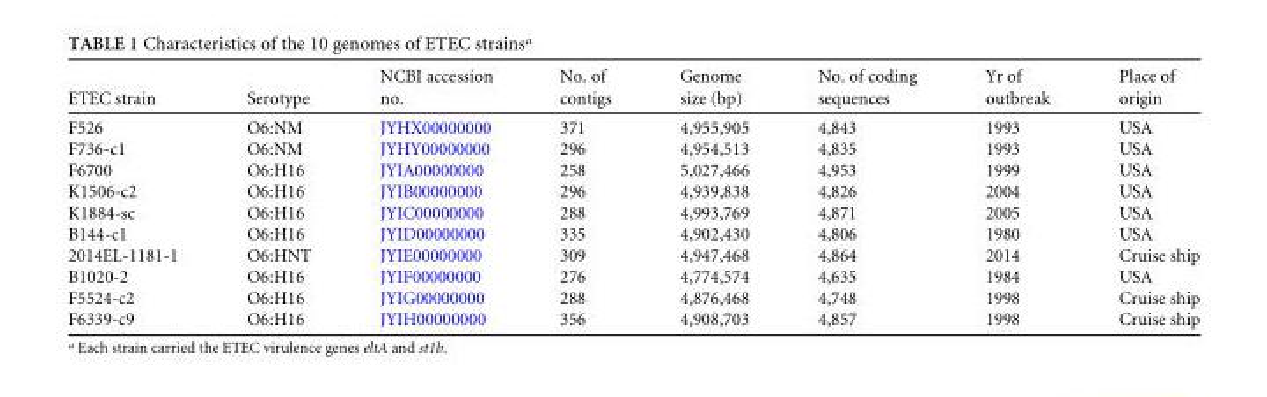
<table><thead><tr><td>ETEC strain</td><td>Serotype</td><td>NCBI accession no.</td><td>No. of contigs</td><td>Genome size (bp)</td><td>No. of coding sequences</td><td>Yr of outbreak</td><td>Place of origin</td></tr></thead><tbody><tr><td>F526</td><td>O6:NM</td><td>JYHX00000000</td><td>371</td><td>4,955,905</td><td>4,843</td><td>1993</td><td>USA</td></tr><tr><td>F736-c1</td><td>O6:NM</td><td>JYHY00000000</td><td>296</td><td>4,954,513</td><td>4,835</td><td>1993</td><td>USA</td></tr><tr><td>F6700</td><td>O6:H16</td><td>JYIA00000000</td><td>258</td><td>5,027,466</td><td>4,953</td><td>1999</td><td>USA</td></tr><tr><td>K1506-c2</td><td>O6:H16</td><td>JYIB00000000</td><td>296</td><td>4,939,838</td><td>4,826</td><td>2004</td><td>USA</td></tr><tr><td>K1884-sc</td><td>O6:H16</td><td>JYIC00000000</td><td>288</td><td>4,993,769</td><td>4,871</td><td>2005</td><td>USA</td></tr><tr><td>B144-c1</td><td>O6:H16</td><td>JYID00000000</td><td>335</td><td>4,902,430</td><td>4,806</td><td>1980</td><td>USA</td></tr><tr><td>2014EL-1181-1</td><td>O6:HNT</td><td>JYIE00000000</td><td>309</td><td>4,947,468</td><td>4,864</td><td>2014</td><td>Cruise ship</td></tr><tr><td>B1020-2</td><td>O6:H16</td><td>JYIF00000000</td><td>276</td><td>4,774,574</td><td>4,635</td><td>1984</td><td>USA</td></tr><tr><td>F5524-c2</td><td>O6:H16</td><td>JYIG00000000</td><td>288</td><td>4,876,468</td><td>4,748</td><td>1998</td><td>Cruise ship</td></tr><tr><td>F6339-c9</td><td>O6:H16</td><td>JYIH00000000</td><td>356</td><td>4,908,703</td><td>4,857</td><td>1998</td><td>Cruise ship</td></tr></tbody></table>